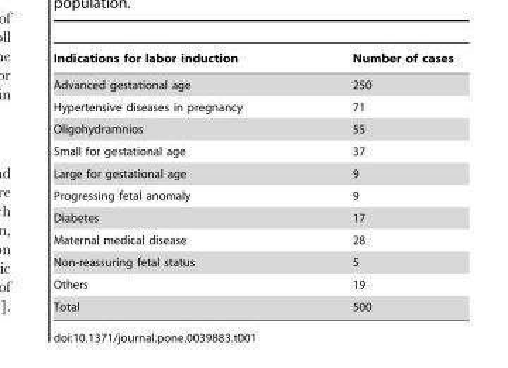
<table><thead><tr><td>Indications for labor induction</td><td>Number of cases</td></tr></thead><tbody><tr><td>Advanced gestational age</td><td>250</td></tr><tr><td>Hypertensive diseases in pregnancy</td><td>71</td></tr><tr><td>Oligohydramnios</td><td>55</td></tr><tr><td>Small for gestational age</td><td>37</td></tr><tr><td>Large for gestational age</td><td>9</td></tr><tr><td>Progressing fetal anomaly</td><td>9</td></tr><tr><td>Diabetes</td><td>17</td></tr><tr><td>Maternal medical disease</td><td>28</td></tr><tr><td>Non-reassuring fetal status</td><td>5</td></tr><tr><td>Others</td><td>19</td></tr><tr><td>Total</td><td>500</td></tr></tbody></table>